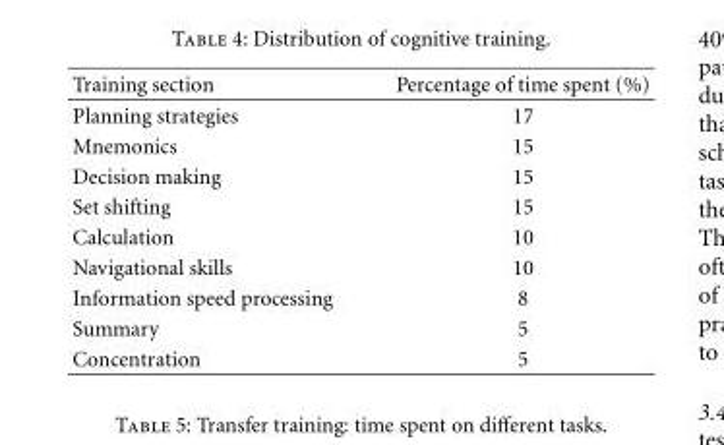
<table><thead><tr><td>Training section</td><td>Percentage of time spent (%)</td></tr></thead><tbody><tr><td>Planning strategies</td><td>17</td></tr><tr><td>Mnemonics</td><td>15</td></tr><tr><td>Decision making</td><td>15</td></tr><tr><td>Set shifting</td><td>15</td></tr><tr><td>Calculation</td><td>10</td></tr><tr><td>Navigational skills</td><td>10</td></tr><tr><td>Information speed processing</td><td>8</td></tr><tr><td>Summary</td><td>5</td></tr><tr><td>Concentration</td><td>5</td></tr></tbody></table>